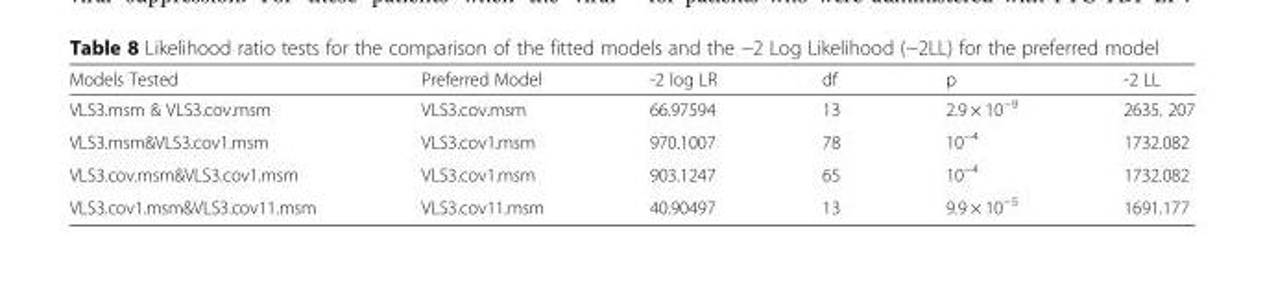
<table><thead><tr><td>Models Tested</td><td>Preferred Model</td><td>-2 log LR</td><td>df</td><td>p</td><td>-2 LL</td></tr></thead><tbody><tr><td>VLS3.msm &amp; VLS3.cov.msm</td><td>VLS3.cov.msm</td><td>66.97594</td><td>13</td><td>2.9 × 10<sup>−9</sup></td><td>2635. 207</td></tr><tr><td>VLS3.msm&amp;VLS3.cov1.msm</td><td>VLS3.cov1.msm</td><td>970.1007</td><td>78</td><td>10<sup>−4</sup></td><td>1732.082</td></tr><tr><td>VLS3.cov.msm&amp;VLS3.cov1.msm</td><td>VLS3.cov1.msm</td><td>903.1247</td><td>65</td><td>10<sup>−4</sup></td><td>1732.082</td></tr><tr><td>VLS3.cov1.msm&amp;VLS3.cov11.msm</td><td>VLS3.cov11.msm</td><td>40.90497</td><td>13</td><td>9.9 × 10<sup>−5</sup></td><td>1691.177</td></tr></tbody></table>